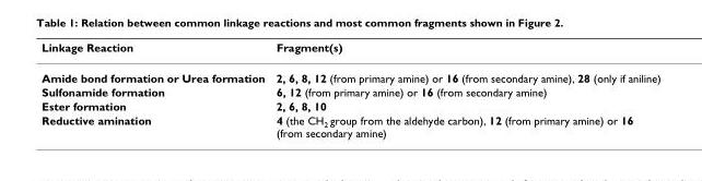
<table><thead><tr><td>Linkage Reaction</td><td>Fragment(s)</td></tr></thead><tbody><tr><td>Amide bond formation or Urea formation</td><td>2, 6, 8, 12 (from primary amine) or 16 (from secondary amine), 28 (only if aniline)</td></tr><tr><td>Sulfonamide formation</td><td>6, 12 (from primary amine) or 16 (from secondary amine)</td></tr><tr><td>Ester formation</td><td>2, 6, 8, 10</td></tr><tr><td>Reductive amination</td><td>4 (the CH<sub>2</sub> group from the aldehyde carbon), 12 (from primary amine) or 16 (from secondary amine)</td></tr></tbody></table>